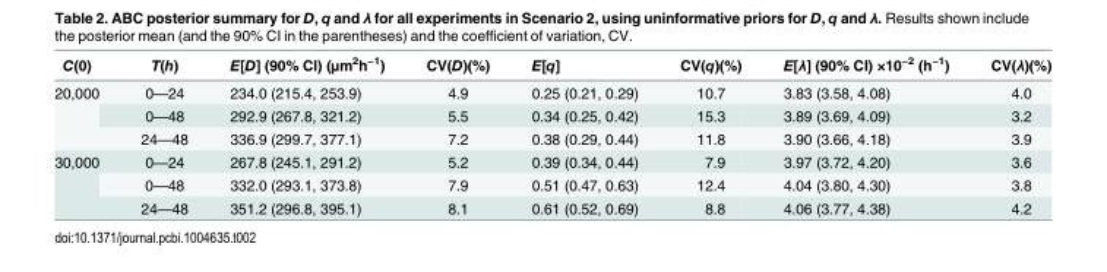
<table><thead><tr><td>C(0)</td><td>T(h)</td><td>E[D] (90% CI) (µm<sup>2</sup>h<sup>−1</sup>)</td><td>CV(D)(%)</td><td>E[q]</td><td>CV(q)(%)</td><td>E[λ] (90% CI) ×10<sup>−2</sup> (h<sup>−1</sup>)</td><td>CV(λ)(%)</td></tr></thead><tbody><tr><td rowspan="3">20,000</td><td>0—24</td><td>234.0 (215.4, 253.9)</td><td>4.9</td><td>0.25 (0.21, 0.29)</td><td>10.7</td><td>3.83 (3.58, 4.08)</td><td>4.0</td></tr><tr><td>0—48</td><td>292.9 (267.8, 321.2)</td><td>5.5</td><td>0.34 (0.25, 0.42)</td><td>15.3</td><td>3.89 (3.69, 4.09)</td><td>3.2</td></tr><tr><td>24—48</td><td>336.9 (299.7, 377.1)</td><td>7.2</td><td>0.38 (0.29, 0.44)</td><td>11.8</td><td>3.90 (3.66, 4.18)</td><td>3.9</td></tr><tr><td rowspan="3">30,000</td><td>0—24</td><td>267.8 (245.1, 291.2)</td><td>5.2</td><td>0.39 (0.34, 0.44)</td><td>7.9</td><td>3.97 (3.72, 4.20)</td><td>3.6</td></tr><tr><td>0—48</td><td>332.0 (293.1, 373.8)</td><td>7.9</td><td>0.51 (0.47, 0.63)</td><td>12.4</td><td>4.04 (3.80, 4.30)</td><td>3.8</td></tr><tr><td>24—48</td><td>351.2 (296.8, 395.1)</td><td>8.1</td><td>0.61 (0.52, 0.69)</td><td>8.8</td><td>4.06 (3.77, 4.38)</td><td>4.2</td></tr></tbody></table>